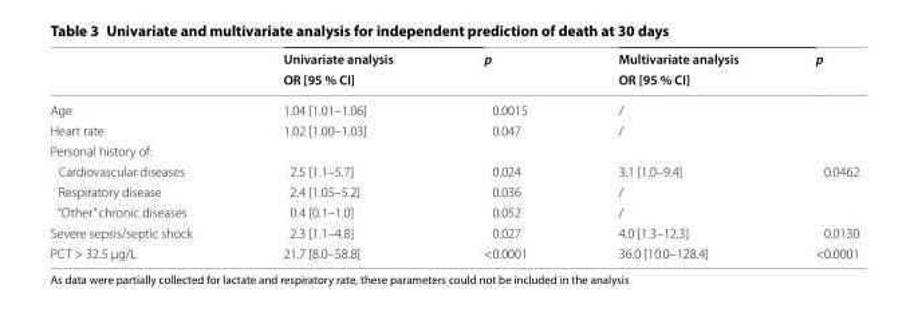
<table><thead><tr><td rowspan="2"></td><td rowspan="2">Univariate analysis OR [95 % CI]</td><td rowspan="2">p</td><td rowspan="2">Multivariate analysis OR [95 % CI]</td><td rowspan="2">p</td></tr><tr></tr></thead><tbody><tr><td>Age</td><td>1.04 [1.01–1.06]</td><td>0.0015</td><td>/</td><td></td></tr><tr><td>Heart rate</td><td>1.02 [1.00–1.03]</td><td>0.047</td><td>/</td><td></td></tr><tr><td colspan="5">Personal history of:</td></tr><tr><td>Cardiovascular diseases</td><td>2.5 [1.1–5.7]</td><td>0.024</td><td>3.1 [1.0–9.4]</td><td>0.0462</td></tr><tr><td>Respiratory disease</td><td>2.4 [1.05–5.2]</td><td>0.036</td><td>/</td><td></td></tr><tr><td>“Other” chronic diseases</td><td>0.4 [0.1–1.0]</td><td>0.052</td><td>/</td><td></td></tr><tr><td>Severe sepsis/septic shock</td><td>2.3 [1.1–4.8]</td><td>0.027</td><td>4.0 [1.3–12.3]</td><td>0.0130</td></tr><tr><td>PCT &gt; 32.5 μg/L</td><td>21.7 [8.0–58.8]</td><td>&lt;0.0001</td><td>36.0 [10.0–128.4]</td><td>&lt;0.0001</td></tr></tbody></table>